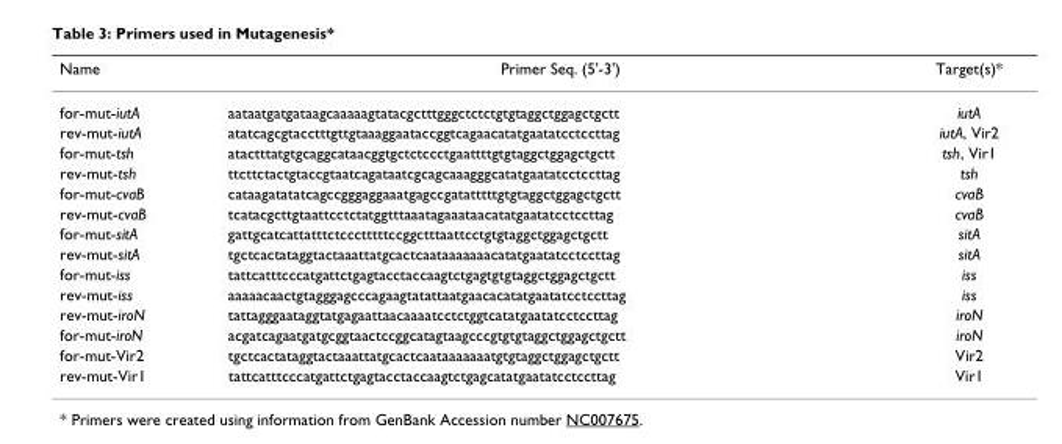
<table><thead><tr><td>Name</td><td>Primer Seq. (5&#x27;-3&#x27;)</td><td>Target(s)*</td></tr></thead><tbody><tr><td>for-mut-iutA</td><td>aataatgatgataagcaaaaagtatacgctttgggctctctgtgtaggctggagctgctt</td><td>iutA</td></tr><tr><td>rev-mut-iutA</td><td>atatcagcgtacctttgttgtaaaggaataccggtcagaacatatgaatatcctccttag</td><td>iutA, Vir2</td></tr><tr><td>for-mut-tsh</td><td>atactttatgtgcaggcataacggtgctctccctgaattttgtgtaggctggagctgctt</td><td>tsh, Vir1</td></tr><tr><td>rev-mut-tsh</td><td>ttcttctactgtaccgtaatcagataatcgcagcaaagggcatatgaatatcctccttag</td><td>tsh</td></tr><tr><td>for-mut-cvaB</td><td>cataagatatatcagccgggaggaaatgagccgatatttttgtgtaggctggagctgctt</td><td>cvaB</td></tr><tr><td>rev-mut-cvaB</td><td>tcatacgcttgtaattcctctatggtttaaatagaaataacatatgaatatcctccttag</td><td>cvaB</td></tr><tr><td>for-mut-sitA</td><td>gattgcatcattatttctccctttttccggctttaattcctgtgtaggctggagctgctt</td><td>sitA</td></tr><tr><td>rev-mut-sitA</td><td>tgctcactataggtactaaattatgcactcaataaaaaaacatatgaatatcctccttag</td><td>sitA</td></tr><tr><td>for-mut-iss</td><td>tattcatttcccatgattctgagtacctaccaagtctgagtgtgtaggctggagctgctt</td><td>iss</td></tr><tr><td>rev-mut-iss</td><td>aaaaacaactgtagggagcccagaagtatattaatgaacacatatgaatatcctccttag</td><td>iss</td></tr><tr><td>rev-mut-iroN</td><td>tattagggaataggtatgagaattaacaaaatcctctggtcatatgaatatcctccttag</td><td>iroN</td></tr><tr><td>for-mut-iroN</td><td>acgatcagaatgatgcggtaactccggcatagtaagcccgtgtgtaggctggagctgctt</td><td>iroN</td></tr><tr><td>for-mut-Vir2</td><td>tgctcactataggtactaaattatgcactcaataaaaaaatgtgtaggctggagctgctt</td><td>Vir2</td></tr><tr><td>rev-mut-Vir1</td><td>tattcatttcccatgattctgagtacctaccaagtctgagcatatgaatatcctccttag</td><td>Vir1</td></tr></tbody></table>